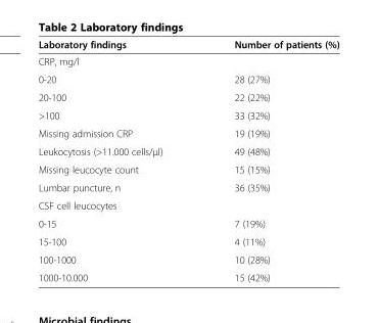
<table><thead><tr><td>Laboratory findings</td><td>Number of patients (%)</td></tr></thead><tbody><tr><td colspan="2">CRP, mg/l</td></tr><tr><td>0-20</td><td>28 (27%)</td></tr><tr><td>20-100</td><td>22 (22%)</td></tr><tr><td>&gt;100</td><td>33 (32%)</td></tr><tr><td>Missing admission CRP</td><td>19 (19%)</td></tr><tr><td>Leukocytosis (&gt;11.000 cells/μl)</td><td>49 (48%)</td></tr><tr><td>Missing leucocyte count</td><td>15 (15%)</td></tr><tr><td>Lumbar puncture, n</td><td>36 (35%)</td></tr><tr><td colspan="2">CSF cell leucocytes</td></tr><tr><td>0-15</td><td>7 (19%)</td></tr><tr><td>15-100</td><td>4 (11%)</td></tr><tr><td>100-1000</td><td>10 (28%)</td></tr><tr><td>1000-10.000</td><td>15 (42%)</td></tr></tbody></table>